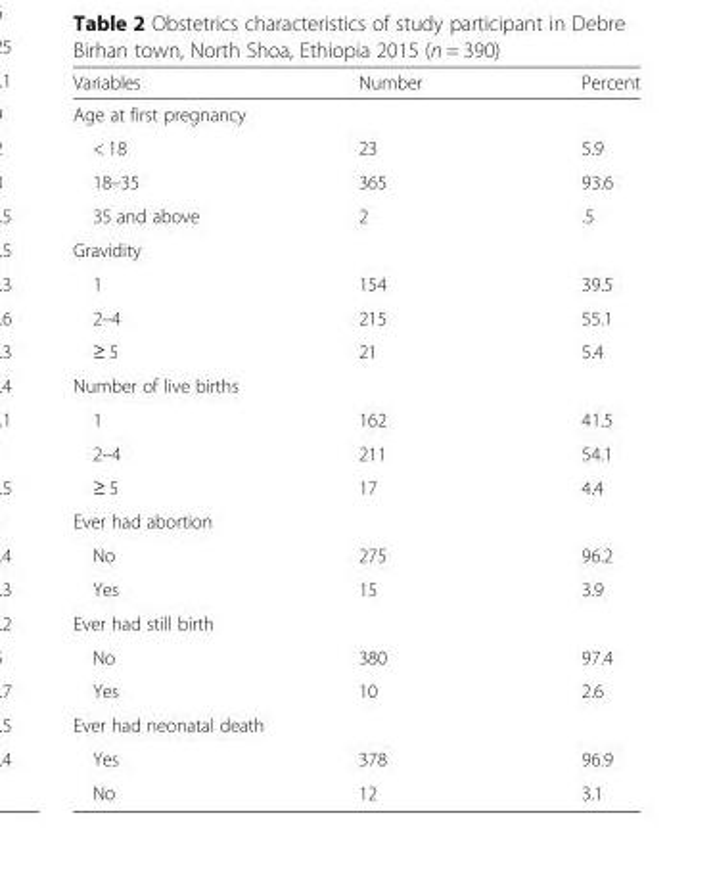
<table><thead><tr><td>Variables</td><td>Number</td><td>Percent</td></tr></thead><tbody><tr><td colspan="3">Age at first pregnancy</td></tr><tr><td>&lt; 18</td><td>23</td><td>5.9</td></tr><tr><td>18–35</td><td>365</td><td>93.6</td></tr><tr><td>35 and above</td><td>2</td><td>.5</td></tr><tr><td colspan="3">Gravidity</td></tr><tr><td>1</td><td>154</td><td>39.5</td></tr><tr><td>2–4</td><td>215</td><td>55.1</td></tr><tr><td>≥ 5</td><td>21</td><td>5.4</td></tr><tr><td colspan="3">Number of live births</td></tr><tr><td>1</td><td>162</td><td>41.5</td></tr><tr><td>2–4</td><td>211</td><td>54.1</td></tr><tr><td>≥ 5</td><td>17</td><td>4.4</td></tr><tr><td colspan="3">Ever had abortion</td></tr><tr><td>No</td><td>275</td><td>96.2</td></tr><tr><td>Yes</td><td>15</td><td>3.9</td></tr><tr><td colspan="3">Ever had still birth</td></tr><tr><td>No</td><td>380</td><td>97.4</td></tr><tr><td>Yes</td><td>10</td><td>2.6</td></tr><tr><td colspan="3">Ever had neonatal death</td></tr><tr><td>Yes</td><td>378</td><td>96.9</td></tr><tr><td>No</td><td>12</td><td>3.1</td></tr></tbody></table>